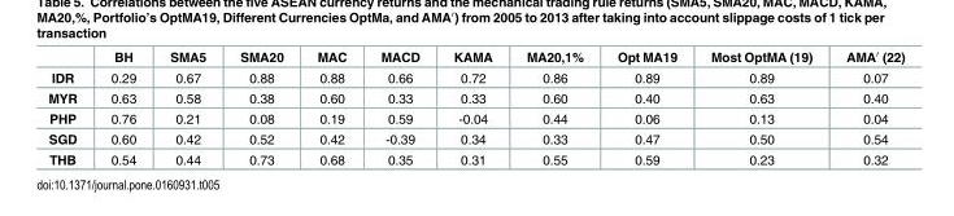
<table><thead><tr><td></td><td>BH</td><td>SMA5</td><td>SMA20</td><td>MAC</td><td>MACD</td><td>KAMA</td><td>MA20,1%</td><td>Opt MA19</td><td>Most OptMA (19)</td><td>AMA′ (22)</td></tr></thead><tbody><tr><td>IDR</td><td>0.29</td><td>0.67</td><td>0.88</td><td>0.88</td><td>0.66</td><td>0.72</td><td>0.86</td><td>0.89</td><td>0.89</td><td>0.07</td></tr><tr><td>MYR</td><td>0.63</td><td>0.58</td><td>0.38</td><td>0.60</td><td>0.33</td><td>0.33</td><td>0.60</td><td>0.40</td><td>0.63</td><td>0.40</td></tr><tr><td>PHP</td><td>0.76</td><td>0.21</td><td>0.08</td><td>0.19</td><td>0.59</td><td>-0.04</td><td>0.44</td><td>0.06</td><td>0.13</td><td>0.04</td></tr><tr><td>SGD</td><td>0.60</td><td>0.42</td><td>0.52</td><td>0.42</td><td>-0.39</td><td>0.34</td><td>0.33</td><td>0.47</td><td>0.50</td><td>0.54</td></tr><tr><td>THB</td><td>0.54</td><td>0.44</td><td>0.73</td><td>0.68</td><td>0.35</td><td>0.31</td><td>0.55</td><td>0.59</td><td>0.23</td><td>0.32</td></tr></tbody></table>